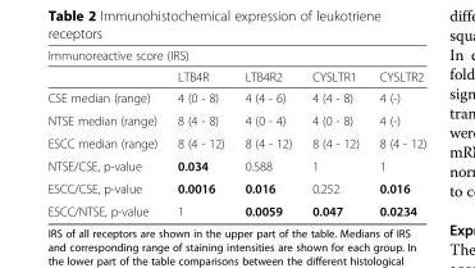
<table><thead><tr><td colspan="5">Immunoreactive score (IRS)</td></tr><tr><td></td><td>LTB4R</td><td>LTB4R2</td><td>CYSLTR1</td><td>CYSLTR2</td></tr></thead><tbody><tr><td>CSE median (range)</td><td>4 (0 - 8)</td><td>4 (4 - 6)</td><td>4 (4 - 8)</td><td>4 (-)</td></tr><tr><td>NTSE median (range)</td><td>8 (4 - 8)</td><td>4 (0 - 4)</td><td>4 (0 - 8)</td><td>4 (-)</td></tr><tr><td>ESCC median (range)</td><td>8 (4 - 12)</td><td>8 (4 - 12)</td><td>8 (4 - 12)</td><td>8 (4 - 12)</td></tr><tr><td>NTSE/CSE, p-value</td><td>0.034</td><td>0.588</td><td>1</td><td>1</td></tr><tr><td>ESCC/CSE, p-value</td><td>0.0016</td><td>0.016</td><td>0.252</td><td>0.016</td></tr><tr><td>ESCC/NTSE, p-value</td><td>1</td><td>0.0059</td><td>0.047</td><td>0.0234</td></tr></tbody></table>